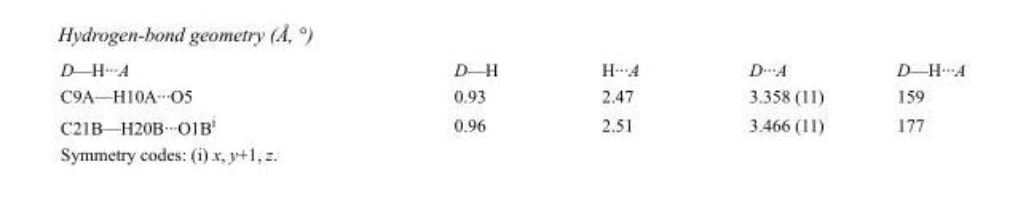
<table><tbody><tr><td>D—H···A</td><td>D—H</td><td>H···A</td><td>D···A</td><td>D—H···A</td></tr><tr><td>C9A—H10A···O5</td><td>0.93</td><td>2.47</td><td>3.358 (11)</td><td>159</td></tr><tr><td>C21B—H20B···O1B<sup>i</sup></td><td>0.96</td><td>2.51</td><td>3.466 (11)</td><td>177</td></tr></tbody></table>